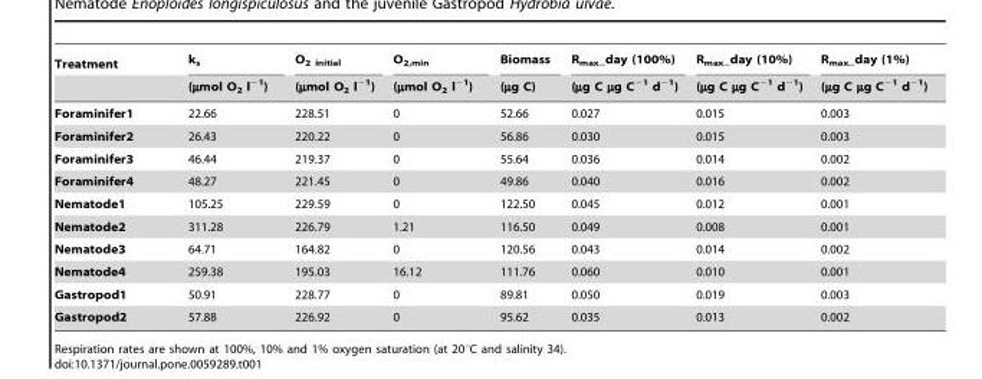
<table><thead><tr><td rowspan="2">Treatment</td><td rowspan="2">k<sub>s</sub> (µmol O<sub>2</sub> l<sup>−1</sup>)</td><td rowspan="2">O<sub>2 initial</sub> (µmol O<sub>2</sub> l<sup>−1</sup>)</td><td rowspan="2">O<sub>2,min</sub> (µmol O<sub>2</sub> l<sup>−1</sup>)</td><td rowspan="2">Biomass (µg C)</td><td rowspan="2">Rmax_day (100%) (µg C µg C−1 d−1)</td><td rowspan="2">Rmax_day (10%) (µg C µg C−1 d−1)</td><td rowspan="2">Rmax_day (1%) (µg C µg C−1 d−1)</td></tr><tr></tr></thead><tbody><tr><td>Foraminifer1</td><td>22.66</td><td>228.51</td><td>0</td><td>52.66</td><td>0.027</td><td>0.015</td><td>0.003</td></tr><tr><td>Foraminifer2</td><td>26.43</td><td>220.22</td><td>0</td><td>56.86</td><td>0.030</td><td>0.015</td><td>0.003</td></tr><tr><td>Foraminifer3</td><td>46.44</td><td>219.37</td><td>0</td><td>55.64</td><td>0.036</td><td>0.014</td><td>0.002</td></tr><tr><td>Foraminifer4</td><td>48.27</td><td>221.45</td><td>0</td><td>49.86</td><td>0.040</td><td>0.016</td><td>0.002</td></tr><tr><td>Nematode1</td><td>105.25</td><td>229.59</td><td>0</td><td>122.50</td><td>0.045</td><td>0.012</td><td>0.001</td></tr><tr><td>Nematode2</td><td>311.28</td><td>226.79</td><td>1.21</td><td>116.50</td><td>0.049</td><td>0.008</td><td>0.001</td></tr><tr><td>Nematode3</td><td>64.71</td><td>164.82</td><td>0</td><td>120.56</td><td>0.043</td><td>0.014</td><td>0.002</td></tr><tr><td>Nematode4</td><td>259.38</td><td>195.03</td><td>16.12</td><td>111.76</td><td>0.060</td><td>0.010</td><td>0.001</td></tr><tr><td>Gastropod1</td><td>50.91</td><td>228.77</td><td>0</td><td>89.81</td><td>0.050</td><td>0.019</td><td>0.003</td></tr><tr><td>Gastropod2</td><td>57.88</td><td>226.92</td><td>0</td><td>95.62</td><td>0.035</td><td>0.013</td><td>0.002</td></tr></tbody></table>